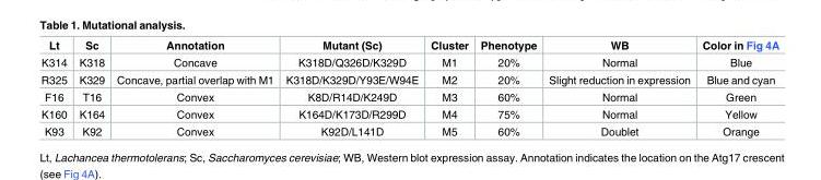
<table><thead><tr><td>Lt</td><td>Sc</td><td>Annotation</td><td>Mutant (Sc)</td><td>Cluster</td><td>Phenotype</td><td>WB</td><td>Color in Fig 4A</td></tr></thead><tbody><tr><td>K314</td><td>K318</td><td>Concave</td><td>K318D/Q326D/K329D</td><td>M1</td><td>20%</td><td>Normal</td><td>Blue</td></tr><tr><td>R325</td><td>K329</td><td>Concave, partial overlap with M1</td><td>K318D/K329D/Y93E/W94E</td><td>M2</td><td>20%</td><td>Slight reduction in expression</td><td>Blue and cyan</td></tr><tr><td>F16</td><td>T16</td><td>Convex</td><td>K8D/R14D/K249D</td><td>M3</td><td>60%</td><td>Normal</td><td>Green</td></tr><tr><td>K160</td><td>K164</td><td>Convex</td><td>K164D/K173D/R299D</td><td>M4</td><td>75%</td><td>Normal</td><td>Yellow</td></tr><tr><td>K93</td><td>K92</td><td>Convex</td><td>K92D/L141D</td><td>M5</td><td>60%</td><td>Doublet</td><td>Orange</td></tr></tbody></table>